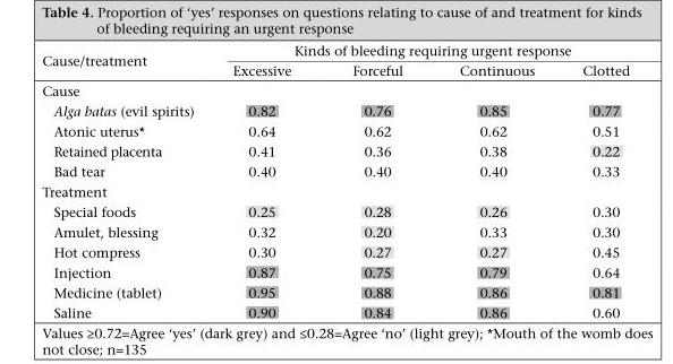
<table><thead><tr><td rowspan="2">Cause/treatment</td><td colspan="4">Kinds of bleeding requiring urgent response</td></tr><tr><td>Excessive</td><td>Forceful</td><td>Continuous</td><td>Clotted</td></tr></thead><tbody><tr><td colspan="5">Cause</td></tr><tr><td>Alga batas (evil spirits)</td><td>0.82</td><td>0.76</td><td>0.85</td><td>0.77</td></tr><tr><td>Atonic uterus*</td><td>0.64</td><td>0.62</td><td>0.62</td><td>0.51</td></tr><tr><td>Retained placenta</td><td>0.41</td><td>0.36</td><td>0.38</td><td>0.22</td></tr><tr><td>Bad tear</td><td>0.40</td><td>0.40</td><td>0.40</td><td>0.33</td></tr><tr><td colspan="5">Treatment</td></tr><tr><td>Special foods</td><td>0.25</td><td>0.28</td><td>0.26</td><td>0.30</td></tr><tr><td>Amulet, blessing</td><td>0.32</td><td>0.20</td><td>0.33</td><td>0.30</td></tr><tr><td>Hot compress</td><td>0.30</td><td>0.27</td><td>0.27</td><td>0.45</td></tr><tr><td>Injection</td><td>0.87</td><td>0.75</td><td>0.79</td><td>0.64</td></tr><tr><td>Medicine (tablet)</td><td>0.95</td><td>0.88</td><td>0.86</td><td>0.81</td></tr><tr><td>Saline</td><td>0.90</td><td>0.84</td><td>0.86</td><td>0.60</td></tr></tbody></table>